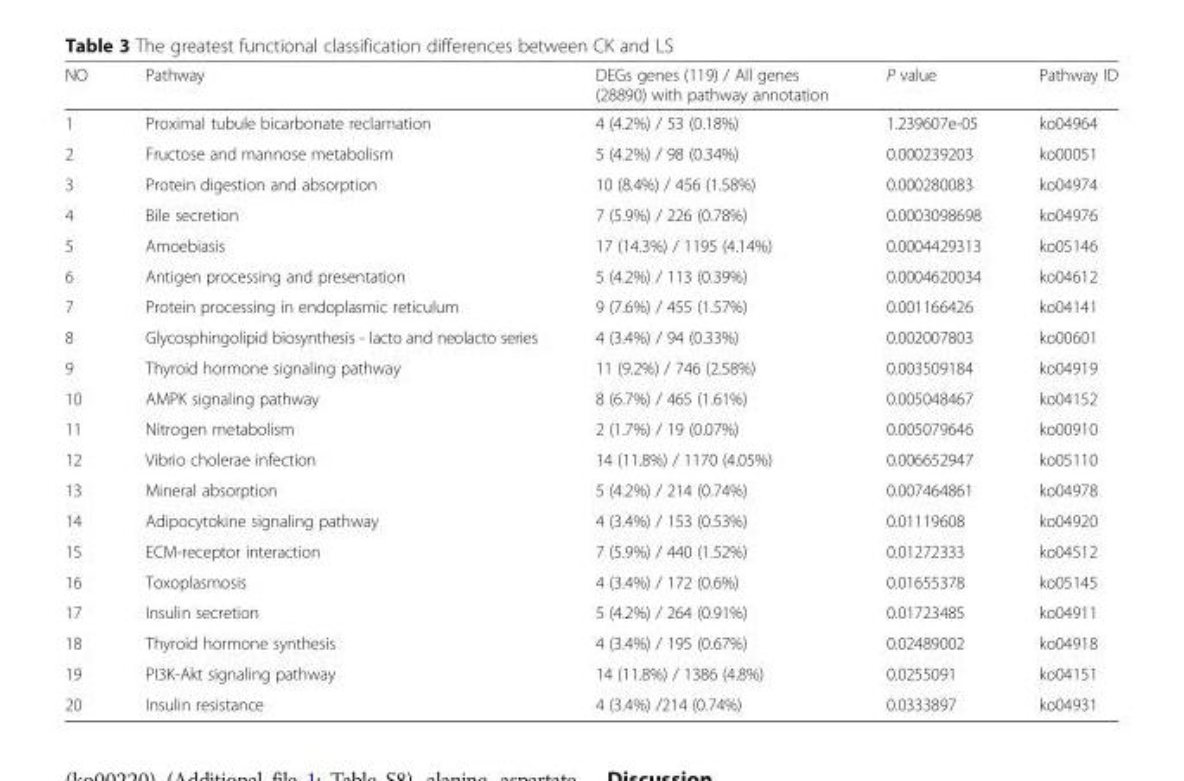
<table><thead><tr><td>NO</td><td>Pathway</td><td>DEGs genes (119) / All genes (28890) with pathway annotation</td><td>P value</td><td>Pathway ID</td></tr></thead><tbody><tr><td>1</td><td>Proximal tubule bicarbonate reclamation</td><td>4 (4.2%) / 53 (0.18%)</td><td>1.239607e-05</td><td>ko04964</td></tr><tr><td>2</td><td>Fructose and mannose metabolism</td><td>5 (4.2%) / 98 (0.34%)</td><td>0.000239203</td><td>ko00051</td></tr><tr><td>3</td><td>Protein digestion and absorption</td><td>10 (8.4%) / 456 (1.58%)</td><td>0.000280083</td><td>ko04974</td></tr><tr><td>4</td><td>Bile secretion</td><td>7 (5.9%) / 226 (0.78%)</td><td>0.0003098698</td><td>ko04976</td></tr><tr><td>5</td><td>Amoebiasis</td><td>17 (14.3%) / 1195 (4.14%)</td><td>0.0004429313</td><td>ko05146</td></tr><tr><td>6</td><td>Antigen processing and presentation</td><td>5 (4.2%) / 113 (0.39%)</td><td>0.0004620034</td><td>ko04612</td></tr><tr><td>7</td><td>Protein processing in endoplasmic reticulum</td><td>9 (7.6%) / 455 (1.57%)</td><td>0.001166426</td><td>ko04141</td></tr><tr><td>8</td><td>Glycosphingolipid biosynthesis - lacto and neolacto series</td><td>4 (3.4%) / 94 (0.33%)</td><td>0.002007803</td><td>ko00601</td></tr><tr><td>9</td><td>Thyroid hormone signaling pathway</td><td>11 (9.2%) / 746 (2.58%)</td><td>0.003509184</td><td>ko04919</td></tr><tr><td>10</td><td>AMPK signaling pathway</td><td>8 (6.7%) / 465 (1.61%)</td><td>0.005048467</td><td>ko04152</td></tr><tr><td>11</td><td>Nitrogen metabolism</td><td>2 (1.7%) / 19 (0.07%)</td><td>0.005079646</td><td>ko00910</td></tr><tr><td>12</td><td>Vibrio cholerae infection</td><td>14 (11.8%) / 1170 (4.05%)</td><td>0.006652947</td><td>ko05110</td></tr><tr><td>13</td><td>Mineral absorption</td><td>5 (4.2%) / 214 (0.74%)</td><td>0.007464861</td><td>ko04978</td></tr><tr><td>14</td><td>Adipocytokine signaling pathway</td><td>4 (3.4%) / 153 (0.53%)</td><td>0.01119608</td><td>ko04920</td></tr><tr><td>15</td><td>ECM-receptor interaction</td><td>7 (5.9%) / 440 (1.52%)</td><td>0.01272333</td><td>ko04512</td></tr><tr><td>16</td><td>Toxoplasmosis</td><td>4 (3.4%) / 172 (0.6%)</td><td>0.01655378</td><td>ko05145</td></tr><tr><td>17</td><td>Insulin secretion</td><td>5 (4.2%) / 264 (0.91%)</td><td>0.01723485</td><td>ko04911</td></tr><tr><td>18</td><td>Thyroid hormone synthesis</td><td>4 (3.4%) / 195 (0.67%)</td><td>0.02489002</td><td>ko04918</td></tr><tr><td>19</td><td>PI3K-Akt signaling pathway</td><td>14 (11.8%) / 1386 (4.8%)</td><td>0.0255091</td><td>ko04151</td></tr><tr><td>20</td><td>Insulin resistance</td><td>4 (3.4%) /214 (0.74%)</td><td>0.0333897</td><td>ko04931</td></tr></tbody></table>